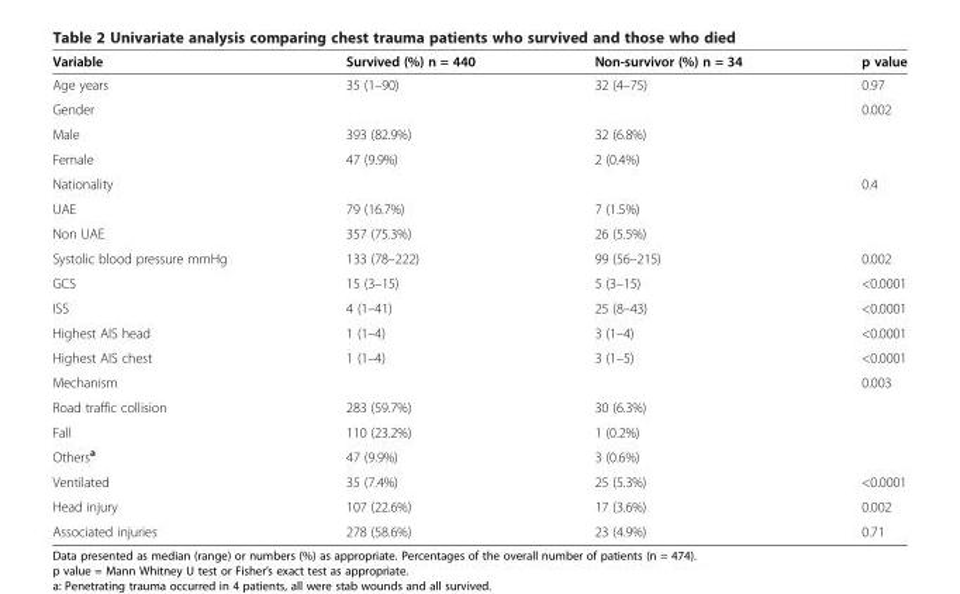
<table><thead><tr><td>Variable</td><td>Survived (%) n = 440</td><td>Non-survivor (%) n = 34</td><td>p value</td></tr></thead><tbody><tr><td>Age years</td><td>35 (1–90)</td><td>32 (4–75)</td><td>0.97</td></tr><tr><td>Gender</td><td></td><td></td><td>0.002</td></tr><tr><td>Male</td><td>393 (82.9%)</td><td>32 (6.8%)</td><td></td></tr><tr><td>Female</td><td>47 (9.9%)</td><td>2 (0.4%)</td><td></td></tr><tr><td>Nationality</td><td></td><td></td><td>0.4</td></tr><tr><td>UAE</td><td>79 (16.7%)</td><td>7 (1.5%)</td><td></td></tr><tr><td>Non UAE</td><td>357 (75.3%)</td><td>26 (5.5%)</td><td></td></tr><tr><td>Systolic blood pressure mmHg</td><td>133 (78–222)</td><td>99 (56–215)</td><td>0.002</td></tr><tr><td>GCS</td><td>15 (3–15)</td><td>5 (3–15)</td><td>&lt;0.0001</td></tr><tr><td>ISS</td><td>4 (1–41)</td><td>25 (8–43)</td><td>&lt;0.0001</td></tr><tr><td>Highest AIS head</td><td>1 (1–4)</td><td>3 (1–4)</td><td>&lt;0.0001</td></tr><tr><td>Highest AIS chest</td><td>1 (1–4)</td><td>3 (1–5)</td><td>&lt;0.0001</td></tr><tr><td>Mechanism</td><td></td><td></td><td>0.003</td></tr><tr><td>Road traffic collision</td><td>283 (59.7%)</td><td>30 (6.3%)</td><td></td></tr><tr><td>Fall</td><td>110 (23.2%)</td><td>1 (0.2%)</td><td></td></tr><tr><td>Others<sup>a</sup></td><td>47 (9.9%)</td><td>3 (0.6%)</td><td></td></tr><tr><td>Ventilated</td><td>35 (7.4%)</td><td>25 (5.3%)</td><td>&lt;0.0001</td></tr><tr><td>Head injury</td><td>107 (22.6%)</td><td>17 (3.6%)</td><td>0.002</td></tr><tr><td>Associated injuries</td><td>278 (58.6%)</td><td>23 (4.9%)</td><td>0.71</td></tr></tbody></table>